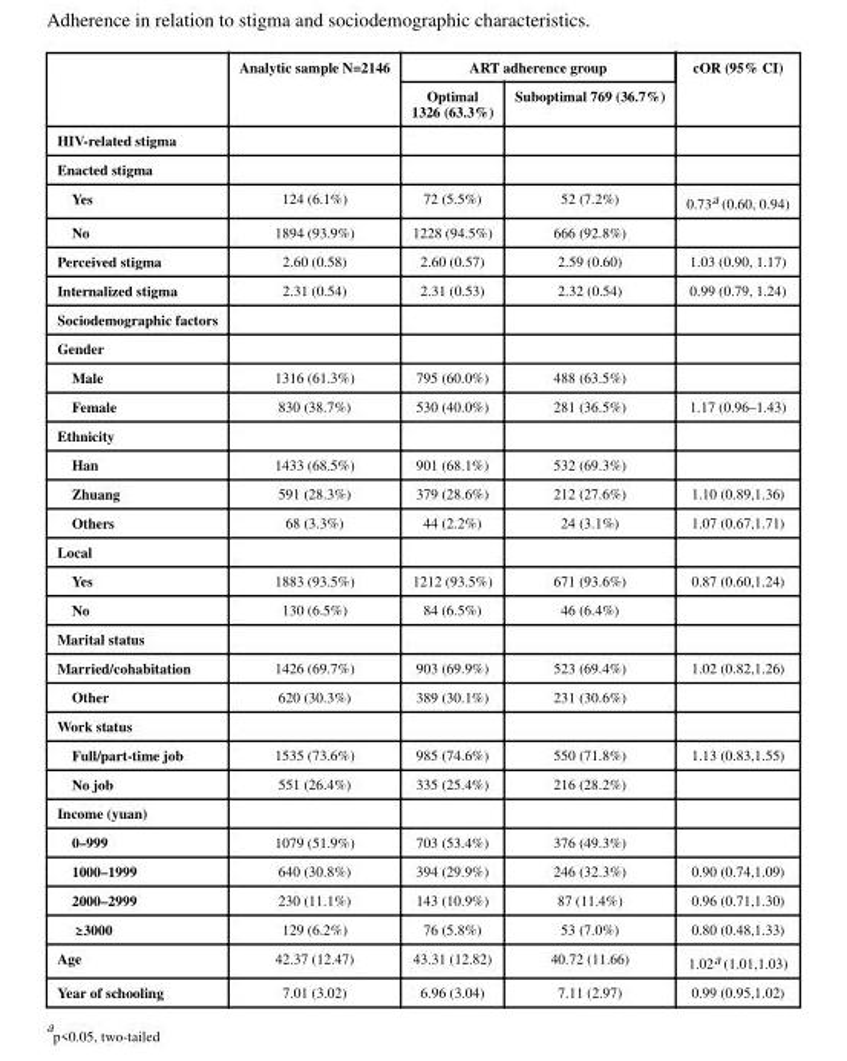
<table><thead><tr><td rowspan="2"></td><td rowspan="2">Analytic sample N=2146</td><td colspan="2">ART adherence group</td><td rowspan="2">cOR (95% CI)</td></tr><tr><td>Optimal 1326 (63.3%)</td><td>Suboptimal 769 (36.7%)</td></tr></thead><tbody><tr><td colspan="5">HIV-related stigma</td></tr><tr><td colspan="5">Enacted stigma</td></tr><tr><td>Yes</td><td>124 (6.1%)</td><td>72 (5.5%)</td><td>52 (7.2%)</td><td>0.73<sup>a</sup> (0.60, 0.94)</td></tr><tr><td>No</td><td>1894 (93.9%)</td><td>1228 (94.5%)</td><td>666 (92.8%)</td><td></td></tr><tr><td>Perceived stigma</td><td>2.60 (0.58)</td><td>2.60 (0.57)</td><td>2.59 (0.60)</td><td>1.03 (0.90, 1.17)</td></tr><tr><td>Internalized stigma</td><td>2.31 (0.54)</td><td>2.31 (0.53)</td><td>2.32 (0.54)</td><td>0.99 (0.79, 1.24)</td></tr><tr><td colspan="5">Sociodemographic factors</td></tr><tr><td colspan="5">Gender</td></tr><tr><td>Male</td><td>1316 (61.3%)</td><td>795 (60.0%)</td><td>488 (63.5%)</td><td></td></tr><tr><td>Female</td><td>830 (38.7%)</td><td>530 (40.0%)</td><td>281 (36.5%)</td><td>1.17 (0.96–1.43)</td></tr><tr><td colspan="5">Ethnicity</td></tr><tr><td>Han</td><td>1433 (68.5%)</td><td>901 (68.1%)</td><td>532 (69.3%)</td><td></td></tr><tr><td>Zhuang</td><td>591 (28.3%)</td><td>379 (28.6%)</td><td>212 (27.6%)</td><td>1.10 (0.89,1.36)</td></tr><tr><td>Others</td><td>68 (3.3%)</td><td>44 (2.2%)</td><td>24 (3.1%)</td><td>1.07 (0.67,1.71)</td></tr><tr><td colspan="5">Local</td></tr><tr><td>Yes</td><td>1883 (93.5%)</td><td>1212 (93.5%)</td><td>671 (93.6%)</td><td>0.87 (0.60,1.24)</td></tr><tr><td>No</td><td>130 (6.5%)</td><td>84 (6.5%)</td><td>46 (6.4%)</td><td></td></tr><tr><td colspan="5">Marital status</td></tr><tr><td>Married/cohabitation</td><td>1426 (69.7%)</td><td>903 (69.9%)</td><td>523 (69.4%)</td><td>1.02 (0.82,1.26)</td></tr><tr><td>Other</td><td>620 (30.3%)</td><td>389 (30.1%)</td><td>231 (30.6%)</td><td></td></tr><tr><td colspan="5">Work status</td></tr><tr><td>Full/part-time job</td><td>1535 (73.6%)</td><td>985 (74.6%)</td><td>550 (71.8%)</td><td>1.13 (0.83,1.55)</td></tr><tr><td>No job</td><td>551 (26.4%)</td><td>335 (25.4%)</td><td>216 (28.2%)</td><td></td></tr><tr><td colspan="5">Income (yuan)</td></tr><tr><td>0–999</td><td>1079 (51.9%)</td><td>703 (53.4%)</td><td>376 (49.3%)</td><td></td></tr><tr><td>1000–1999</td><td>640 (30.8%)</td><td>394 (29.9%)</td><td>246 (32.3%)</td><td>0.90 (0.74,1.09)</td></tr><tr><td>2000–2999</td><td>230 (11.1%)</td><td>143 (10.9%)</td><td>87 (11.4%)</td><td>0.96 (0.71,1.30)</td></tr><tr><td>≥ 3000</td><td>129 (6.2%)</td><td>76 (5.8%)</td><td>53 (7.0%)</td><td>0.80 (0.48,1.33)</td></tr><tr><td>Age</td><td>42.37 (12.47)</td><td>43.31 (12.82)</td><td>40.72 (11.66)</td><td>1.02<sup>a</sup> (1.01,1.03)</td></tr><tr><td>Year of schooling</td><td>7.01 (3.02)</td><td>6.96 (3.04)</td><td>7.11 (2.97)</td><td>0.99 (0.95,1.02)</td></tr></tbody></table>